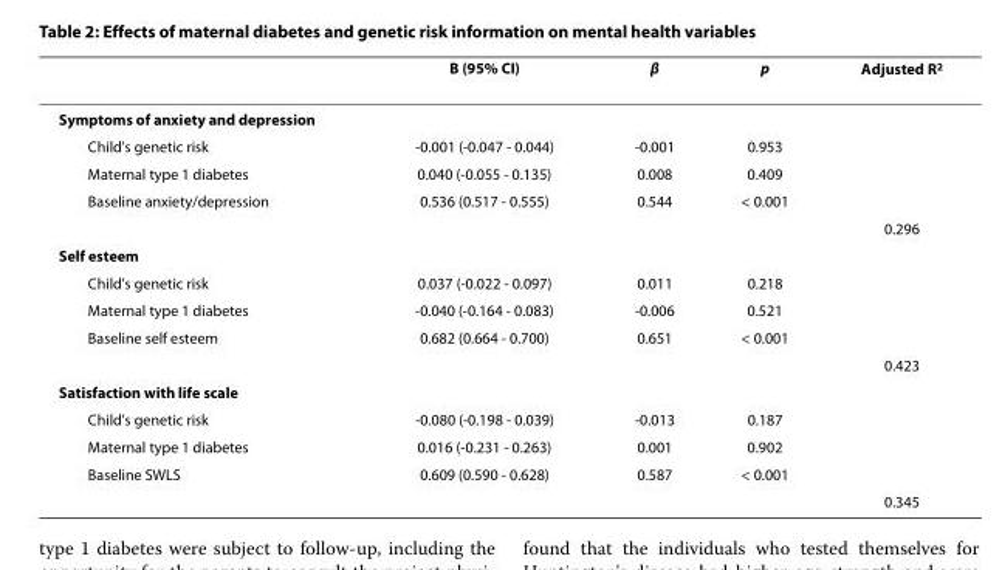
<table><thead><tr><td></td><td>B (95% CI)</td><td>β</td><td>p</td><td>Adjusted R<sup>2</sup></td></tr></thead><tbody><tr><td colspan="5">Symptoms of anxiety and depression</td></tr><tr><td>Child&#x27;s genetic risk</td><td>-0.001 (-0.047 - 0.044)</td><td>-0.001</td><td>0.953</td><td></td></tr><tr><td>Maternal type 1 diabetes</td><td>0.040 (-0.055 - 0.135)</td><td>0.008</td><td>0.409</td><td></td></tr><tr><td rowspan="2">Baseline anxiety/depression</td><td>0.536 (0.517 - 0.555)</td><td>0.544</td><td>&lt; 0.001</td><td></td></tr><tr><td></td><td></td><td></td><td>0.296</td></tr><tr><td colspan="5">Self esteem</td></tr><tr><td>Child&#x27;s genetic risk</td><td>0.037 (-0.022 - 0.097)</td><td>0.011</td><td>0.218</td><td></td></tr><tr><td>Maternal type 1 diabetes</td><td>-0.040 (-0.164 - 0.083)</td><td>-0.006</td><td>0.521</td><td></td></tr><tr><td rowspan="2">Baseline self esteem</td><td>0.682 (0.664 - 0.700)</td><td>0.651</td><td>&lt; 0.001</td><td></td></tr><tr><td></td><td></td><td></td><td>0.423</td></tr><tr><td colspan="5">Satisfaction with life scale</td></tr><tr><td>Child&#x27;s genetic risk</td><td>-0.080 (-0.198 - 0.039)</td><td>-0.013</td><td>0.187</td><td></td></tr><tr><td>Maternal type 1 diabetes</td><td>0.016 (-0.231 - 0.263)</td><td>0.001</td><td>0.902</td><td></td></tr><tr><td rowspan="2">Baseline SWLS</td><td>0.609 (0.590 - 0.628)</td><td>0.587</td><td>&lt; 0.001</td><td></td></tr><tr><td></td><td></td><td></td><td>0.345</td></tr></tbody></table>